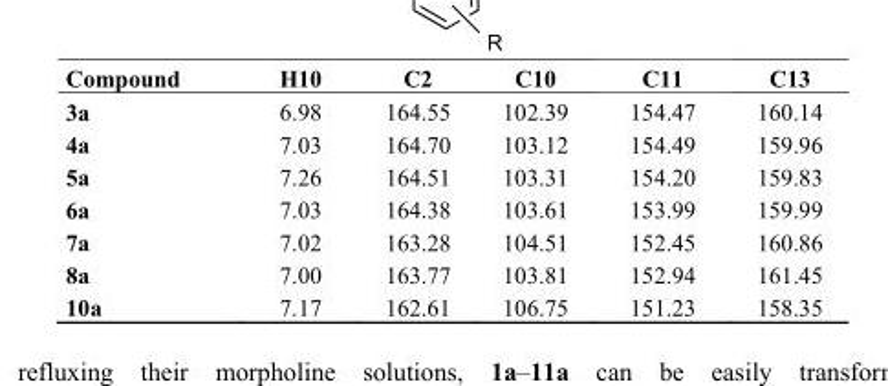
<table><thead><tr><td>Compound</td><td>H10</td><td>C2</td><td>C10</td><td>C11</td><td>C13</td></tr></thead><tbody><tr><td>3a</td><td>6.98</td><td>164.55</td><td>102.39</td><td>154.47</td><td>160.14</td></tr><tr><td>4a</td><td>7.03</td><td>164.70</td><td>103.12</td><td>154.49</td><td>159.96</td></tr><tr><td>5a</td><td>7.26</td><td>164.51</td><td>103.31</td><td>154.20</td><td>159.83</td></tr><tr><td>6a</td><td>7.03</td><td>164.38</td><td>103.61</td><td>153.99</td><td>159.99</td></tr><tr><td>7a</td><td>7.02</td><td>163.28</td><td>104.51</td><td>152.45</td><td>160.86</td></tr><tr><td>8a</td><td>7.00</td><td>163.77</td><td>103.81</td><td>152.94</td><td>161.45</td></tr><tr><td>10a</td><td>7.17</td><td>162.61</td><td>106.75</td><td>151.23</td><td>158.35</td></tr></tbody></table>